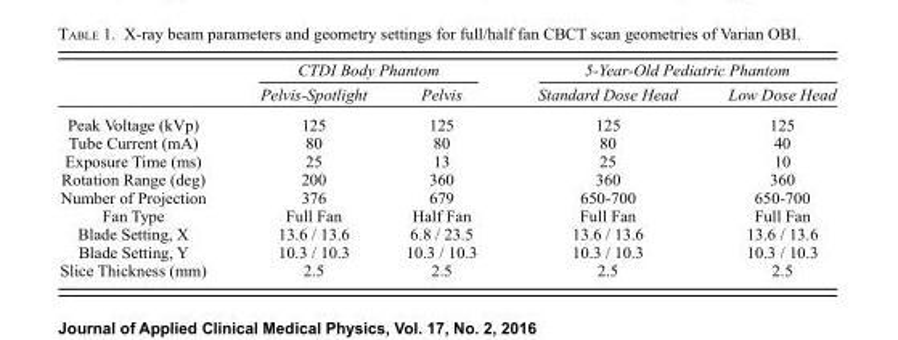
<table><thead><tr><td rowspan="2"></td><td colspan="2">CTDI Body Phantom</td><td colspan="2">5-Year-Old Pediatric Phantom</td></tr><tr><td>Pelvis-Spotlight</td><td>Pelvis</td><td>Standard Dose Head</td><td>Low Dose Head</td></tr></thead><tbody><tr><td>Peak Voltage (kVp)</td><td>125</td><td>125</td><td>125</td><td>125</td></tr><tr><td>Tube Current (mA)</td><td>80</td><td>80</td><td>80</td><td>40</td></tr><tr><td>Exposure Time (ms)</td><td>25</td><td>13</td><td>25</td><td>10</td></tr><tr><td>Rotation Range (deg)</td><td>200</td><td>360</td><td>360</td><td>360</td></tr><tr><td>Number of Projection</td><td>376</td><td>679</td><td>650-700</td><td>650-700</td></tr><tr><td>Fan Type</td><td>Full Fan</td><td>Half Fan</td><td>Full Fan</td><td>Full Fan</td></tr><tr><td>Blade Setting, X</td><td>13.6 / 13.6</td><td>6.8 / 23.5</td><td>13.6 / 13.6</td><td>13.6 / 13.6</td></tr><tr><td>Blade Setting, Y</td><td>10.3 / 10.3</td><td>10.3 / 10.3</td><td>10.3 / 10.3</td><td>10.3 / 10.3</td></tr><tr><td>Slice Thickness (mm)</td><td>2.5</td><td>2.5</td><td>2.5</td><td>2.5</td></tr></tbody></table>